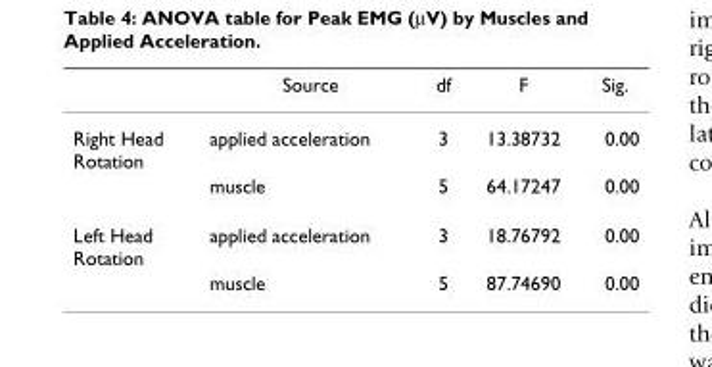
<table><thead><tr><td></td><td>Source</td><td>df</td><td>F</td><td>Sig.</td></tr></thead><tbody><tr><td rowspan="2">Right Head Rotation</td><td>applied acceleration</td><td>3</td><td>13.38732</td><td>0.00</td></tr><tr><td>muscle</td><td>5</td><td>64.17247</td><td>0.00</td></tr><tr><td rowspan="2">Left Head Rotation</td><td>applied acceleration</td><td>3</td><td>18.76792</td><td>0.00</td></tr><tr><td>muscle</td><td>5</td><td>87.74690</td><td>0.00</td></tr></tbody></table>